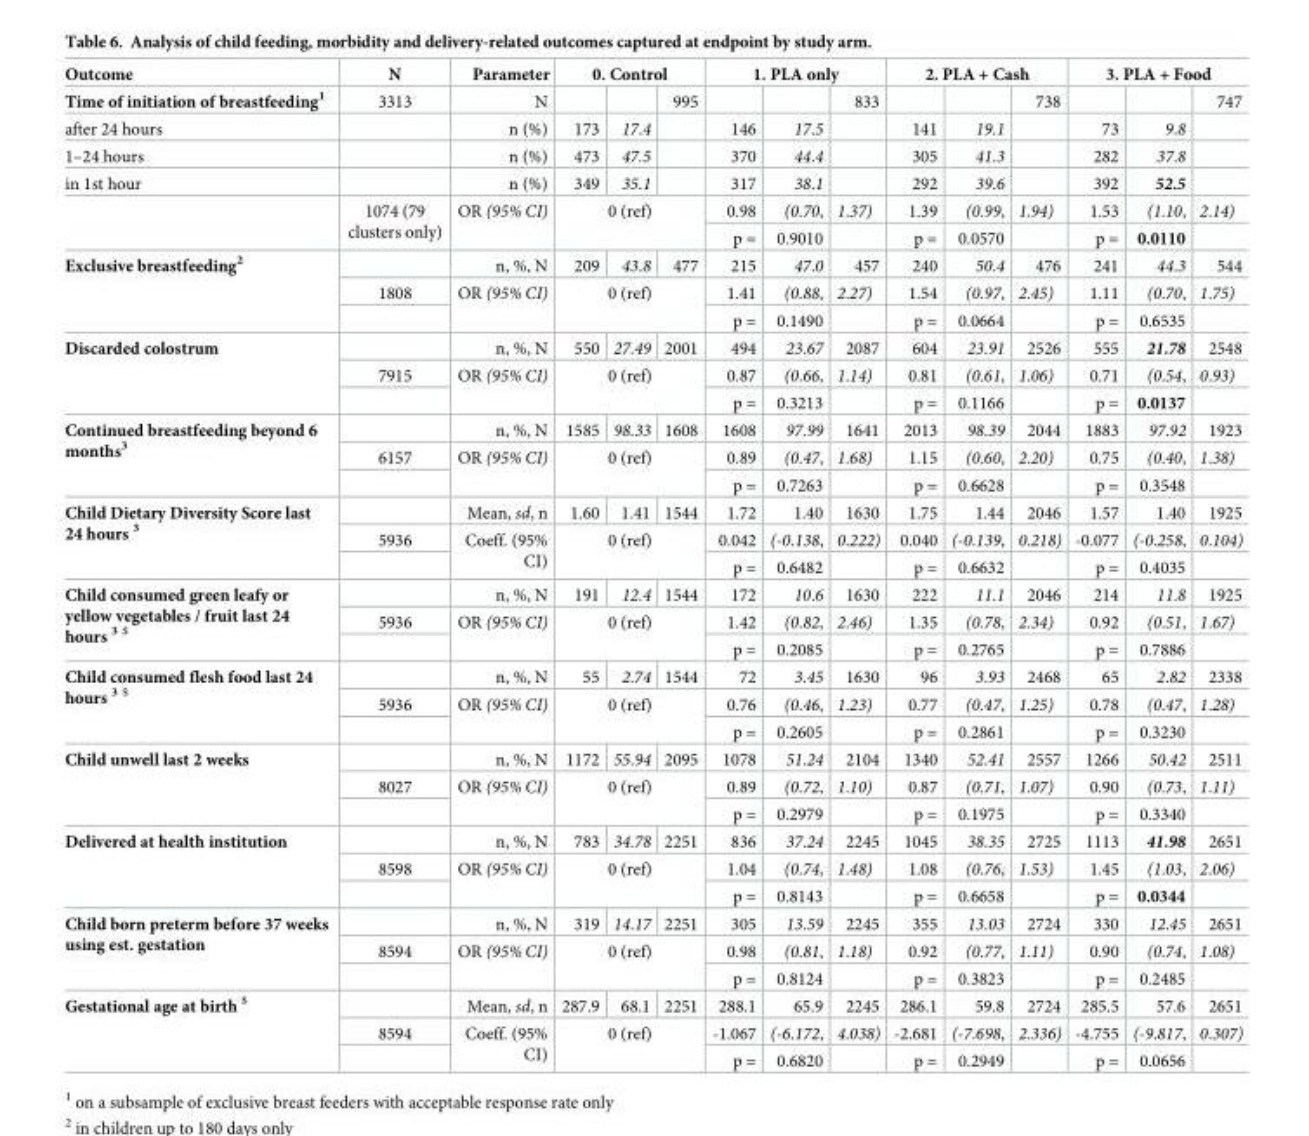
<table><thead><tr><td rowspan="2">Outcome Time of initiation of breastfeeding<sup>1</sup></td><td rowspan="2">N 3313</td><td rowspan="2">Parameter N</td><td colspan="3">0. Control</td><td colspan="3">1. PLA only</td><td colspan="3">2. PLA + Cash</td><td colspan="3">3. PLA + Food</td></tr><tr><td></td><td></td><td>995</td><td></td><td></td><td>833</td><td></td><td></td><td>738</td><td></td><td></td><td>747</td></tr></thead><tbody><tr><td>after 24 hours</td><td></td><td>n (%)</td><td>173</td><td>17.4</td><td></td><td>146</td><td>17.5</td><td></td><td>141</td><td>19.1</td><td></td><td>73</td><td>9.8</td><td></td></tr><tr><td>1–24 hours</td><td></td><td>n (%)</td><td>473</td><td>47.5</td><td></td><td>370</td><td>44.4</td><td></td><td>305</td><td>41.3</td><td></td><td>282</td><td>37.8</td><td></td></tr><tr><td rowspan="3">in 1st hour</td><td></td><td>n (%)</td><td>349</td><td>35.1</td><td></td><td>317</td><td>38.1</td><td></td><td>292</td><td>39.6</td><td></td><td>392</td><td>52.5</td><td></td></tr><tr><td rowspan="2">1074 (79 clusters only)</td><td rowspan="2">OR (95% CI)</td><td rowspan="2" colspan="3">0 (ref)</td><td>0.98</td><td>(0.70,</td><td>1.37)</td><td>1.39</td><td>(0.99,</td><td>1.94)</td><td>1.53</td><td>(1.10,</td><td>2.14)</td></tr><tr><td>p =</td><td>0.9010</td><td></td><td>p =</td><td>0.0570</td><td></td><td>p =</td><td>0.0110</td><td></td></tr><tr><td rowspan="3">Exclusive breastfeeding<sup>2</sup></td><td></td><td>n, %, N</td><td>209</td><td>43.8</td><td>477</td><td>215</td><td>47.0</td><td>457</td><td>240</td><td>50.4</td><td>476</td><td>241</td><td>44.3</td><td>544</td></tr><tr><td>1808</td><td rowspan="2">OR (95% CI)</td><td rowspan="2" colspan="3">0 (ref)</td><td>1.41</td><td>(0.88,</td><td>2.27)</td><td>1.54</td><td>(0.97,</td><td>2.45)</td><td>1.11</td><td>(0.70,</td><td>1.75)</td></tr><tr><td></td><td>p =</td><td>0.1490</td><td></td><td>p =</td><td>0.0664</td><td></td><td>p =</td><td>0.6535</td><td></td></tr><tr><td rowspan="3">Discarded colostrum</td><td></td><td>n, %, N</td><td>550</td><td>27.49</td><td>2001</td><td>494</td><td>23.67</td><td>2087</td><td>604</td><td>23.91</td><td>2526</td><td>555</td><td>21.78</td><td>2548</td></tr><tr><td>7915</td><td rowspan="2">OR (95% CI)</td><td rowspan="2" colspan="3">0 (ref)</td><td>0.87</td><td>(0.66,</td><td>1.14)</td><td>0.81</td><td>(0.61,</td><td>1.06)</td><td>0.71</td><td>(0.54,</td><td>0.93)</td></tr><tr><td></td><td>p =</td><td>0.3213</td><td></td><td>p =</td><td>0.1166</td><td></td><td>p =</td><td>0.0137</td><td></td></tr><tr><td rowspan="3">Continued breastfeeding beyond 6 months<sup>3</sup></td><td></td><td>n, %, N</td><td>1585</td><td>98.33</td><td>1608</td><td>1608</td><td>97.99</td><td>1641</td><td>2013</td><td>98.39</td><td>2044</td><td>1883</td><td>97.92</td><td>1923</td></tr><tr><td>6157</td><td rowspan="2">OR (95% CI)</td><td rowspan="2" colspan="3">0 (ref)</td><td>0.89</td><td>(0.47,</td><td>1.68)</td><td>1.15</td><td>(0.60,</td><td>2.20)</td><td>0.75</td><td>(0.40,</td><td>1.38)</td></tr><tr><td></td><td>p =</td><td>0.7263</td><td></td><td>p =</td><td>0.6628</td><td></td><td>p =</td><td>0.3548</td><td></td></tr><tr><td rowspan="3">Child Dietary Diversity Score last 24 hours <sup>3</sup></td><td></td><td>Mean, sd, n</td><td>1.60</td><td>1.41</td><td>1544</td><td>1.72</td><td>1.40</td><td>1630</td><td>1.75</td><td>1.44</td><td>2046</td><td>1.57</td><td>1.40</td><td>1925</td></tr><tr><td>5936</td><td rowspan="2">Coeff. (95% CI)</td><td rowspan="2" colspan="3">0 (ref)</td><td>0.042</td><td>(-0.138,</td><td>0.222)</td><td>0.040</td><td>(-0.139,</td><td>0.218)</td><td>-0.077</td><td>(-0.258,</td><td>0.104)</td></tr><tr><td></td><td>p =</td><td>0.6482</td><td></td><td>p =</td><td>0.6632</td><td></td><td>p =</td><td>0.4035</td><td></td></tr><tr><td rowspan="3">Child consumed green leafy or yellow vegetables / fruit last 24 hours <sup>3 $</sup></td><td></td><td>n, %, N</td><td>191</td><td>12.4</td><td>1544</td><td>172</td><td>10.6</td><td>1630</td><td>222</td><td>11.1</td><td>2046</td><td>214</td><td>11.8</td><td>1925</td></tr><tr><td>5936</td><td rowspan="2">OR (95% CI)</td><td rowspan="2" colspan="3">0 (ref)</td><td>1.42</td><td>(0.82,</td><td>2.46)</td><td>1.35</td><td>(0.78,</td><td>2.34)</td><td>0.92</td><td>(0.51,</td><td>1.67)</td></tr><tr><td></td><td>p =</td><td>0.2085</td><td></td><td>p =</td><td>0.2765</td><td></td><td>p =</td><td>0.7886</td><td></td></tr><tr><td rowspan="3">Child consumed flesh food last 24 hours <sup>3 $</sup></td><td></td><td>n, %, N</td><td>55</td><td>2.74</td><td>1544</td><td>72</td><td>3.45</td><td>1630</td><td>96</td><td>3.93</td><td>2468</td><td>65</td><td>2.82</td><td>2338</td></tr><tr><td>5936</td><td rowspan="2">OR (95% CI)</td><td rowspan="2" colspan="3">0 (ref)</td><td>0.76</td><td>(0.46,</td><td>1.23)</td><td>0.77</td><td>(0.47,</td><td>1.25)</td><td>0.78</td><td>(0.47,</td><td>1.28)</td></tr><tr><td></td><td>p =</td><td>0.2605</td><td></td><td>p =</td><td>0.2861</td><td></td><td>p =</td><td>0.3230</td><td></td></tr><tr><td rowspan="3">Child unwell last 2 weeks</td><td></td><td>n, %, N</td><td>1172</td><td>55.94</td><td>2095</td><td>1078</td><td>51.24</td><td>2104</td><td>1340</td><td>52.41</td><td>2557</td><td>1266</td><td>50.42</td><td>2511</td></tr><tr><td>8027</td><td rowspan="2">OR (95% CI)</td><td rowspan="2" colspan="3">0 (ref)</td><td>0.89</td><td>(0.72,</td><td>1.10)</td><td>0.87</td><td>(0.71,</td><td>1.07)</td><td>0.90</td><td>(0.73,</td><td>1.11)</td></tr><tr><td></td><td>p =</td><td>0.2979</td><td></td><td>p =</td><td>0.1975</td><td></td><td>p =</td><td>0.3340</td><td></td></tr><tr><td rowspan="3">Delivered at health institution</td><td></td><td>n, %, N</td><td>783</td><td>34.78</td><td>2251</td><td>836</td><td>37.24</td><td>2245</td><td>1045</td><td>38.35</td><td>2725</td><td>1113</td><td>41.98</td><td>2651</td></tr><tr><td>8598</td><td rowspan="2">OR (95% CI)</td><td rowspan="2" colspan="3">0 (ref)</td><td>1.04</td><td>(0.74,</td><td>1.48)</td><td>1.08</td><td>(0.76,</td><td>1.53)</td><td>1.45</td><td>(1.03,</td><td>2.06)</td></tr><tr><td></td><td>p =</td><td>0.8143</td><td></td><td>p =</td><td>0.6658</td><td></td><td>p =</td><td>0.0344</td><td></td></tr><tr><td rowspan="3">Child born preterm before 37 weeks using est. gestation</td><td></td><td>n, %, N</td><td>319</td><td>14.17</td><td>2251</td><td>305</td><td>13.59</td><td>2245</td><td>355</td><td>13.03</td><td>2724</td><td>330</td><td>12.45</td><td>2651</td></tr><tr><td>8594</td><td rowspan="2">OR (95% CI)</td><td rowspan="2" colspan="3">0 (ref)</td><td>0.98</td><td>(0.81,</td><td>1.18)</td><td>0.92</td><td>(0.77,</td><td>1.11)</td><td>0.90</td><td>(0.74,</td><td>1.08)</td></tr><tr><td></td><td>p =</td><td>0.8124</td><td></td><td>p =</td><td>0.3823</td><td></td><td>p =</td><td>0.2485</td><td></td></tr><tr><td rowspan="3">Gestational age at birth <sup>$</sup></td><td></td><td>Mean, sd, n</td><td>287.9</td><td>68.1</td><td>2251</td><td>288.1</td><td>65.9</td><td>2245</td><td>286.1</td><td>59.8</td><td>2724</td><td>285.5</td><td>57.6</td><td>2651</td></tr><tr><td>8594</td><td rowspan="2">Coeff. (95% CI)</td><td rowspan="2" colspan="3">0 (ref)</td><td>-1.067</td><td>(-6.172,</td><td>4.038)</td><td>-2.681</td><td>(-7.698,</td><td>2.336)</td><td>-4.755</td><td>(-9.817,</td><td>0.307)</td></tr><tr><td></td><td>p =</td><td>0.6820</td><td></td><td>p =</td><td>0.2949</td><td></td><td>p =</td><td>0.0656</td><td></td></tr></tbody></table>